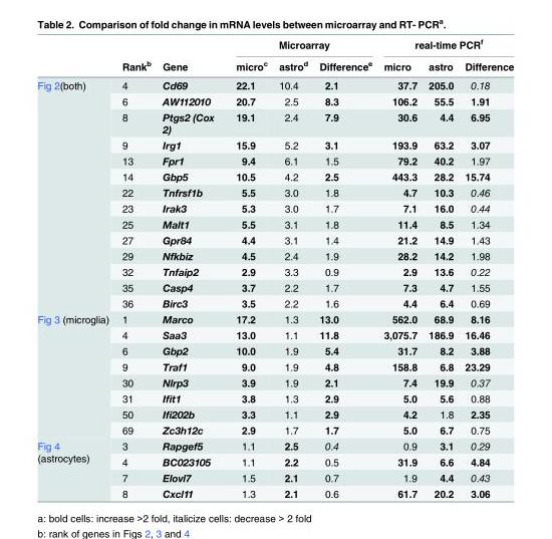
<table><thead><tr><td rowspan="2"></td><td rowspan="2">Rank<sup>b</sup></td><td rowspan="2">Gene</td><td colspan="3">Microarray</td><td colspan="3">real-time PCR<sup>f</sup></td></tr><tr><td>micro<sup>c</sup></td><td>astro<sup>d</sup></td><td>Difference<sup>e</sup></td><td>micro</td><td>astro</td><td>Difference</td></tr></thead><tbody><tr><td rowspan="14">Fig 2(both)</td><td>4</td><td>Cd69</td><td>22.1</td><td>10.4</td><td>2.1</td><td>37.7</td><td>205.0</td><td>0.18</td></tr><tr><td>6</td><td>AW112010</td><td>20.7</td><td>2.5</td><td>8.3</td><td>106.2</td><td>55.5</td><td>1.91</td></tr><tr><td>8</td><td>Ptgs2 (Cox 2)</td><td>19.1</td><td>2.4</td><td>7.9</td><td>30.6</td><td>4.4</td><td>6.95</td></tr><tr><td>9</td><td>Irg1</td><td>15.9</td><td>5.2</td><td>3.1</td><td>193.9</td><td>63.2</td><td>3.07</td></tr><tr><td>13</td><td>Fpr1</td><td>9.4</td><td>6.1</td><td>1.5</td><td>79.2</td><td>40.2</td><td>1.97</td></tr><tr><td>14</td><td>Gbp5</td><td>10.5</td><td>4.2</td><td>2.5</td><td>443.3</td><td>28.2</td><td>15.74</td></tr><tr><td>22</td><td>Tnfrsf1b</td><td>5.5</td><td>3.0</td><td>1.8</td><td>4.7</td><td>10.3</td><td>0.46</td></tr><tr><td>23</td><td>Irak3</td><td>5.3</td><td>3.0</td><td>1.7</td><td>7.1</td><td>16.0</td><td>0.44</td></tr><tr><td>25</td><td>Malt1</td><td>5.5</td><td>3.1</td><td>1.8</td><td>11.4</td><td>8.5</td><td>1.34</td></tr><tr><td>27</td><td>Gpr84</td><td>4.4</td><td>3.1</td><td>1.4</td><td>21.2</td><td>14.9</td><td>1.43</td></tr><tr><td>29</td><td>Nfkbiz</td><td>4.5</td><td>2.4</td><td>1.9</td><td>28.2</td><td>14.2</td><td>1.98</td></tr><tr><td>32</td><td>Tnfaip2</td><td>2.9</td><td>3.3</td><td>0.9</td><td>2.9</td><td>13.6</td><td>0.22</td></tr><tr><td>35</td><td>Casp4</td><td>3.7</td><td>2.2</td><td>1.7</td><td>7.3</td><td>4.7</td><td>1.55</td></tr><tr><td>36</td><td>Birc3</td><td>3.5</td><td>2.2</td><td>1.6</td><td>4.4</td><td>6.4</td><td>0.69</td></tr><tr><td rowspan="8">Fig 3 (microglia)</td><td>1</td><td>Marco</td><td>17.2</td><td>1.3</td><td>13.0</td><td>562.0</td><td>68.9</td><td>8.16</td></tr><tr><td>4</td><td>Saa3</td><td>13.0</td><td>1.1</td><td>11.8</td><td>3,075.7</td><td>186.9</td><td>16.46</td></tr><tr><td>6</td><td>Gbp2</td><td>10.0</td><td>1.9</td><td>5.4</td><td>31.7</td><td>8.2</td><td>3.88</td></tr><tr><td>9</td><td>Traf1</td><td>9.0</td><td>1.9</td><td>4.8</td><td>158.8</td><td>6.8</td><td>23.29</td></tr><tr><td>30</td><td>Nlrp3</td><td>3.9</td><td>1.9</td><td>2.1</td><td>7.4</td><td>19.9</td><td>0.37</td></tr><tr><td>31</td><td>Ifit1</td><td>3.8</td><td>1.3</td><td>2.9</td><td>5.0</td><td>5.6</td><td>0.88</td></tr><tr><td>50</td><td>Ifi202b</td><td>3.3</td><td>1.1</td><td>2.9</td><td>4.2</td><td>1.8</td><td>2.35</td></tr><tr><td>69</td><td>Zc3h12c</td><td>2.9</td><td>1.7</td><td>1.7</td><td>5.0</td><td>6.7</td><td>0.75</td></tr><tr><td rowspan="4">Fig 4 (astrocytes)</td><td>3</td><td>Rapgef5</td><td>1.1</td><td>2.5</td><td>0.4</td><td>0.9</td><td>3.1</td><td>0.29</td></tr><tr><td>4</td><td>BC023105</td><td>1.1</td><td>2.2</td><td>0.5</td><td>31.9</td><td>6.6</td><td>4.84</td></tr><tr><td>7</td><td>Elovl7</td><td>1.5</td><td>2.1</td><td>0.7</td><td>1.9</td><td>4.4</td><td>0.43</td></tr><tr><td>8</td><td>Cxcl11</td><td>1.3</td><td>2.1</td><td>0.6</td><td>61.7</td><td>20.2</td><td>3.06</td></tr></tbody></table>